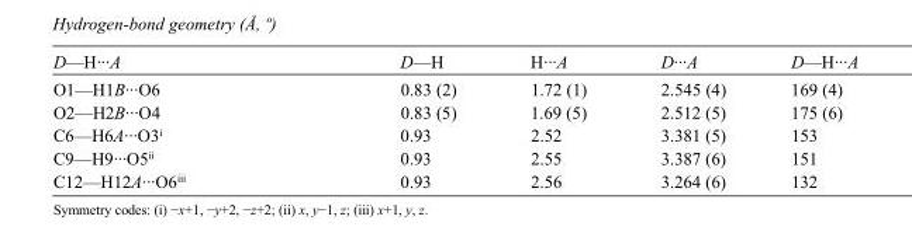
<table><tbody><tr><td>D—H···A</td><td>D—H</td><td>H···A</td><td>D···A</td><td>D—H···A</td></tr><tr><td>O1—H1B···O6</td><td>0.83 (2)</td><td>1.72 (1)</td><td>2.545 (4)</td><td>169 (4)</td></tr><tr><td>O2—H2B···O4</td><td>0.83 (5)</td><td>1.69 (5)</td><td>2.512 (5)</td><td>175 (6)</td></tr><tr><td>C6—H6A···O3<sup>i</sup></td><td>0.93</td><td>2.52</td><td>3.381 (5)</td><td>153</td></tr><tr><td>C9—H9···O5<sup>ii</sup></td><td>0.93</td><td>2.55</td><td>3.387 (6)</td><td>151</td></tr><tr><td>C12—H12A···O6<sup>iii</sup></td><td>0.93</td><td>2.56</td><td>3.264 (6)</td><td>132</td></tr></tbody></table>